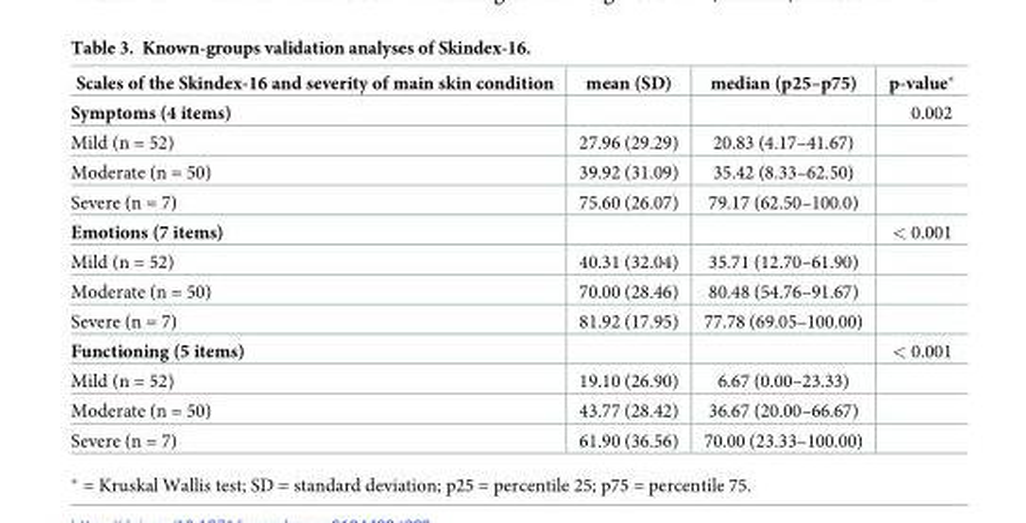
<table><thead><tr><td>Scales of the Skindex-16 and severity of main skin condition</td><td>mean (SD)</td><td>median (p25–p75)</td><td>p-value*</td></tr></thead><tbody><tr><td>Symptoms (4 items)</td><td></td><td></td><td>0.002</td></tr><tr><td>Mild (n = 52)</td><td>27.96 (29.29)</td><td>20.83 (4.17–41.67)</td><td></td></tr><tr><td>Moderate (n = 50)</td><td>39.92 (31.09)</td><td>35.42 (8.33–62.50)</td><td></td></tr><tr><td>Severe (n = 7)</td><td>75.60 (26.07)</td><td>79.17 (62.50–100.0)</td><td></td></tr><tr><td>Emotions (7 items)</td><td></td><td></td><td>&lt; 0.001</td></tr><tr><td>Mild (n = 52)</td><td>40.31 (32.04)</td><td>35.71 (12.70–61.90)</td><td></td></tr><tr><td>Moderate (n = 50)</td><td>70.00 (28.46)</td><td>80.48 (54.76–91.67)</td><td></td></tr><tr><td>Severe (n = 7)</td><td>81.92 (17.95)</td><td>77.78 (69.05–100.00)</td><td></td></tr><tr><td>Functioning (5 items)</td><td></td><td></td><td>&lt; 0.001</td></tr><tr><td>Mild (n = 52)</td><td>19.10 (26.90)</td><td>6.67 (0.00–23.33)</td><td></td></tr><tr><td>Moderate (n = 50)</td><td>43.77 (28.42)</td><td>36.67 (20.00–66.67)</td><td></td></tr><tr><td>Severe (n = 7)</td><td>61.90 (36.56)</td><td>70.00 (23.33–100.00)</td><td></td></tr></tbody></table>